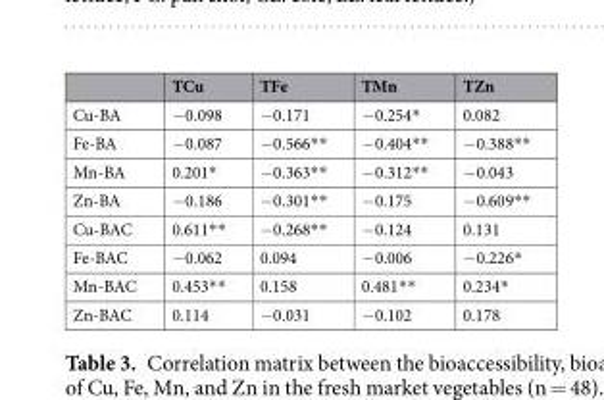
<table><thead><tr><td></td><td>TCu</td><td>TFe</td><td>TMn</td><td>TZn</td></tr></thead><tbody><tr><td>Cu-BA</td><td>−0.098</td><td>−0.171</td><td>−0.254*</td><td>0.082</td></tr><tr><td>Fe-BA</td><td>−0.087</td><td>−0.566**</td><td>−0.404**</td><td>−0.388**</td></tr><tr><td>Mn-BA</td><td>0.201*</td><td>−0.363**</td><td>−0.312**</td><td>−0.043</td></tr><tr><td>Zn-BA</td><td>−0.186</td><td>−0.301**</td><td>−0.175</td><td>−0.609**</td></tr><tr><td>Cu-BAC</td><td>0.611**</td><td>−0.268**</td><td>−0.124</td><td>0.131</td></tr><tr><td>Fe-BAC</td><td>−0.062</td><td>0.094</td><td>−0.006</td><td>−0.226*</td></tr><tr><td>Mn-BAC</td><td>0.453**</td><td>0.158</td><td>0.481**</td><td>0.234*</td></tr><tr><td>Zn-BAC</td><td>0.114</td><td>−0.031</td><td>−0.102</td><td>0.178</td></tr></tbody></table>